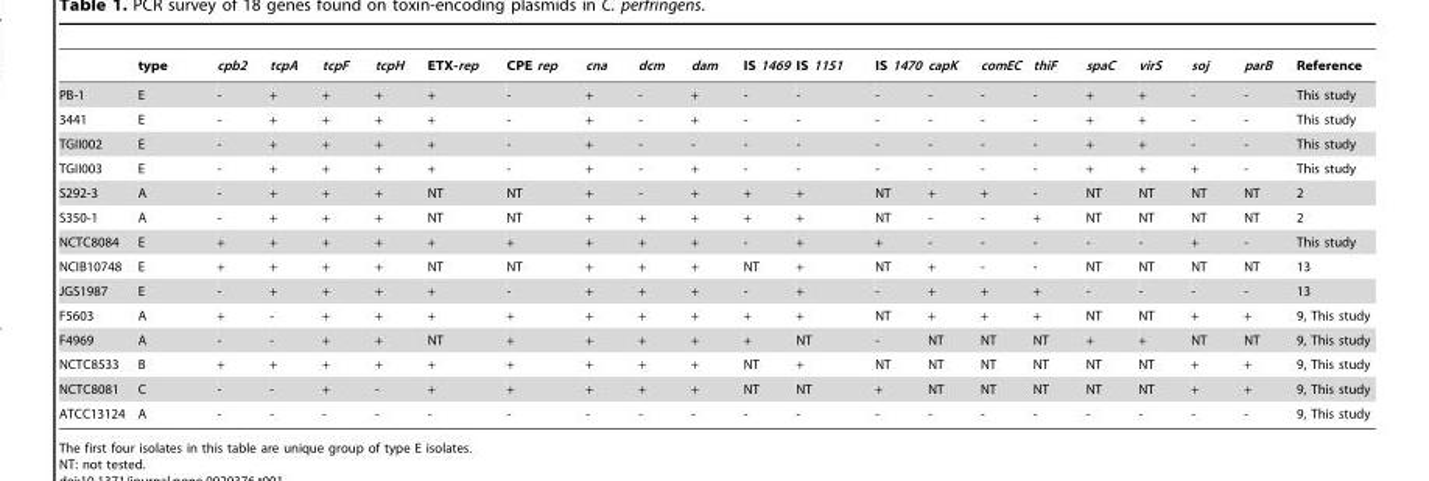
<table><thead><tr><td></td><td>type</td><td>cpb2</td><td>tcpA</td><td>tcpF</td><td>tcpH</td><td>ETX-rep</td><td>CPE rep</td><td>cna</td><td>dcm</td><td>dam</td><td>IS 1469</td><td>IS 1151</td><td>IS 1470</td><td>capK</td><td>comEC</td><td>thiF</td><td>spaC</td><td>virS</td><td>soj</td><td>parB</td><td>Reference</td></tr></thead><tbody><tr><td>PB-1</td><td>E</td><td>-</td><td>+</td><td>+</td><td>+</td><td>+</td><td>-</td><td>+</td><td>-</td><td>+</td><td>-</td><td>-</td><td>-</td><td>-</td><td>-</td><td>-</td><td>+</td><td>+</td><td>-</td><td>-</td><td>This study</td></tr><tr><td>3441</td><td>E</td><td>-</td><td>+</td><td>+</td><td>+</td><td>+</td><td>-</td><td>+</td><td>-</td><td>+</td><td>-</td><td>-</td><td>-</td><td>-</td><td>-</td><td>-</td><td>+</td><td>+</td><td>-</td><td>-</td><td>This study</td></tr><tr><td>TGII002</td><td>E</td><td>-</td><td>+</td><td>+</td><td>+</td><td>+</td><td>-</td><td>+</td><td>-</td><td>-</td><td>-</td><td>-</td><td>-</td><td>-</td><td>-</td><td>-</td><td>+</td><td>+</td><td>-</td><td>-</td><td>This study</td></tr><tr><td>TGII003</td><td>E</td><td>-</td><td>+</td><td>+</td><td>+</td><td>+</td><td>-</td><td>+</td><td>-</td><td>+</td><td>-</td><td>-</td><td>-</td><td>-</td><td>-</td><td>-</td><td>+</td><td>+</td><td>+</td><td>-</td><td>This study</td></tr><tr><td>S292-3</td><td>A</td><td>-</td><td>+</td><td>+</td><td>+</td><td>NT</td><td>NT</td><td>+</td><td>-</td><td>+</td><td>+</td><td>+</td><td>NT</td><td>+</td><td>+</td><td>-</td><td>NT</td><td>NT</td><td>NT</td><td>NT</td><td>2</td></tr><tr><td>S350-1</td><td>A</td><td>-</td><td>+</td><td>+</td><td>+</td><td>NT</td><td>NT</td><td>+</td><td>+</td><td>+</td><td>+</td><td>+</td><td>NT</td><td>-</td><td>-</td><td>+</td><td>NT</td><td>NT</td><td>NT</td><td>NT</td><td>2</td></tr><tr><td>NCTC8084</td><td>E</td><td>+</td><td>+</td><td>+</td><td>+</td><td>+</td><td>+</td><td>+</td><td>+</td><td>+</td><td>-</td><td>+</td><td>+</td><td>-</td><td>-</td><td>-</td><td>-</td><td>-</td><td>+</td><td>-</td><td>This study</td></tr><tr><td>NCIB10748</td><td>E</td><td>+</td><td>+</td><td>+</td><td>+</td><td>NT</td><td>NT</td><td>+</td><td>+</td><td>+</td><td>NT</td><td>+</td><td>NT</td><td>+</td><td>-</td><td>-</td><td>NT</td><td>NT</td><td>NT</td><td>NT</td><td>13</td></tr><tr><td>JGS1987</td><td>E</td><td>-</td><td>+</td><td>+</td><td>+</td><td>+</td><td>-</td><td>+</td><td>+</td><td>+</td><td>-</td><td>+</td><td>-</td><td>+</td><td>+</td><td>+</td><td>-</td><td>-</td><td>-</td><td>-</td><td>13</td></tr><tr><td>F5603</td><td>A</td><td>+</td><td>-</td><td>+</td><td>+</td><td>+</td><td>+</td><td>+</td><td>+</td><td>+</td><td>+</td><td>+</td><td>NT</td><td>+</td><td>+</td><td>+</td><td>NT</td><td>NT</td><td>+</td><td>+</td><td>9, This study</td></tr><tr><td>F4969</td><td>A</td><td>-</td><td>-</td><td>+</td><td>+</td><td>NT</td><td>+</td><td>+</td><td>+</td><td>+</td><td>+</td><td>NT</td><td>-</td><td>NT</td><td>NT</td><td>NT</td><td>+</td><td>+</td><td>NT</td><td>NT</td><td>9, This study</td></tr><tr><td>NCTC8533</td><td>B</td><td>+</td><td>+</td><td>+</td><td>+</td><td>+</td><td>+</td><td>+</td><td>+</td><td>+</td><td>NT</td><td>+</td><td>NT</td><td>NT</td><td>NT</td><td>NT</td><td>NT</td><td>NT</td><td>+</td><td>+</td><td>9, This study</td></tr><tr><td>NCTC8081</td><td>C</td><td>-</td><td>-</td><td>+</td><td>-</td><td>+</td><td>+</td><td>+</td><td>+</td><td>+</td><td>NT</td><td>NT</td><td>+</td><td>NT</td><td>NT</td><td>NT</td><td>NT</td><td>NT</td><td>+</td><td>+</td><td>9, This study</td></tr><tr><td>ATCC13124</td><td>A</td><td>-</td><td>-</td><td>-</td><td>-</td><td>-</td><td>-</td><td>-</td><td>-</td><td>-</td><td>-</td><td>-</td><td>-</td><td>-</td><td>-</td><td>-</td><td>-</td><td>-</td><td>-</td><td>-</td><td>9, This study</td></tr></tbody></table>